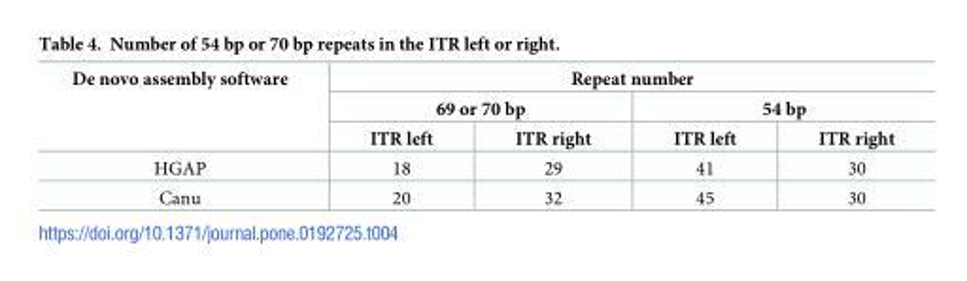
<table><thead><tr><td rowspan="3">De novo assembly software</td><td colspan="4">Repeat number</td></tr><tr><td colspan="2">69 or 70 bp</td><td colspan="2">54 bp</td></tr><tr><td>ITR left</td><td>ITR right</td><td>ITR left</td><td>ITR right</td></tr></thead><tbody><tr><td>HGAP</td><td>18</td><td>29</td><td>41</td><td>30</td></tr><tr><td>Canu</td><td>20</td><td>32</td><td>45</td><td>30</td></tr></tbody></table>